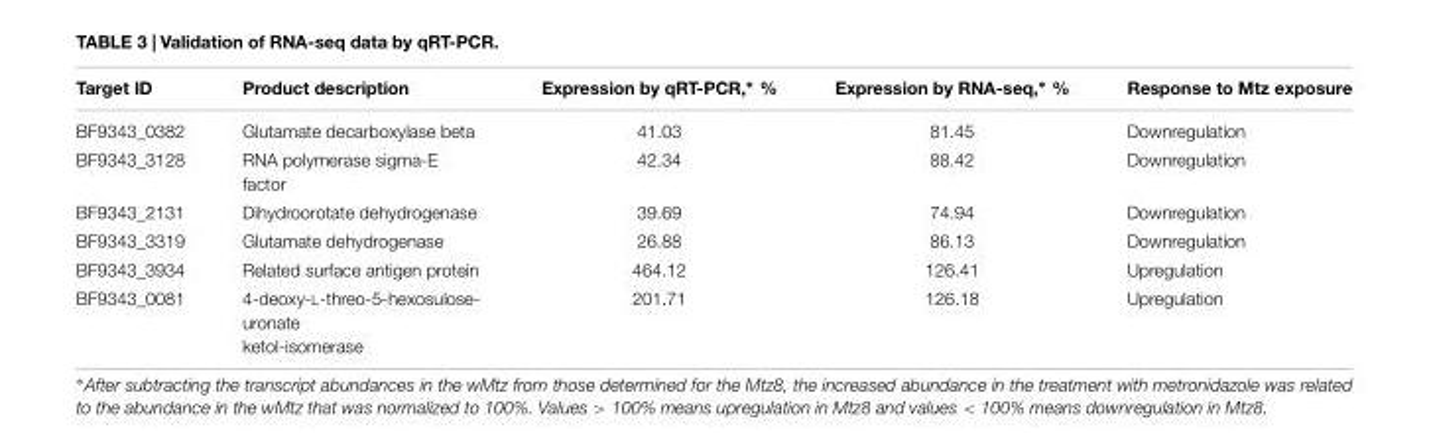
<table><thead><tr><td>Target ID</td><td>Product description</td><td>Expression by qRT-PCR,∗ %</td><td>Expression by RNA-seq,∗ %</td><td>Response to Mtz exposure</td></tr></thead><tbody><tr><td>BF9343_0382</td><td>Glutamate decarboxylase beta</td><td>41.03</td><td>81.45</td><td>Downregulation</td></tr><tr><td>BF9343_3128</td><td>RNA polymerase sigma-E factor</td><td>42.34</td><td>88.42</td><td>Downregulation</td></tr><tr><td>BF9343_2131</td><td>Dihydroorotate dehydrogenase</td><td>39.69</td><td>74.94</td><td>Downregulation</td></tr><tr><td>BF9343_3319</td><td>Glutamate dehydrogenase</td><td>26.88</td><td>86.13</td><td>Downregulation</td></tr><tr><td>BF9343_3934</td><td>Related surface antigen protein</td><td>464.12</td><td>126.41</td><td>Upregulation</td></tr><tr><td>BF9343_0081</td><td>4-deoxy-L-threo-5-hexosulose- uronate ketol-isomerase</td><td>201.71</td><td>126.18</td><td>Upregulation</td></tr></tbody></table>